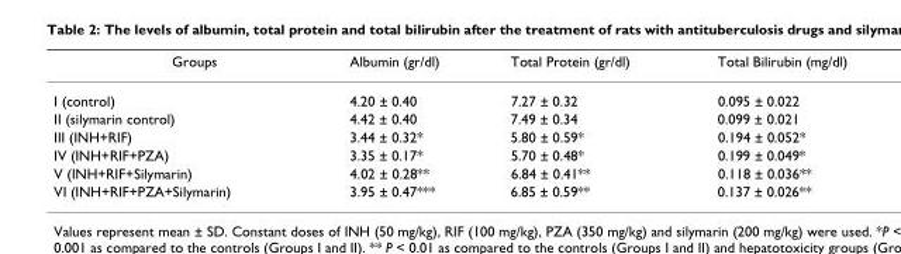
<table><thead><tr><td>Groups</td><td>Albumin (gr/dl)</td><td>Total Protein (gr/dl)</td><td>Total Bilirubin (mg/dl)</td></tr></thead><tbody><tr><td>I (control)</td><td>4.20 ± 0.40</td><td>7.27 ± 0.32</td><td>0.095 ± 0.022</td></tr><tr><td>II (silymarin control)</td><td>4.42 ± 0.40</td><td>7.49 ± 0.34</td><td>0.099 ± 0.021</td></tr><tr><td>III (INH+RIF)</td><td>3.44 ± 0.32*</td><td>5.80 ± 0.59*</td><td>0.194 ± 0.052*</td></tr><tr><td>IV (INH+RIF+PZA)</td><td>3.35 ± 0.17*</td><td>5.70 ± 0.48*</td><td>0.199 ± 0.049*</td></tr><tr><td>V (INH+RIF+Silymarin)</td><td>4.02 ± 0.28**</td><td>6.84 ± 0.41**</td><td>0.118 ± 0.036**</td></tr><tr><td>VI (INH+RIF+PZA+Silymarin)</td><td>3.95 ± 0.47***</td><td>6.85 ± 0.59**</td><td>0.137 ± 0.026**</td></tr></tbody></table>